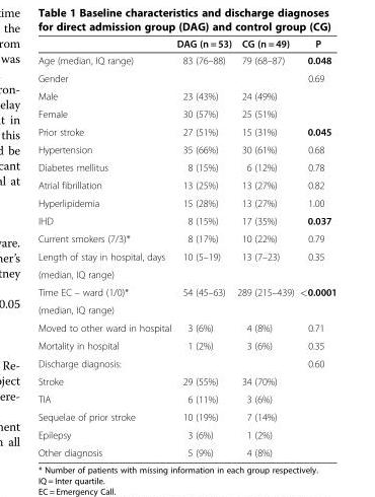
<table><thead><tr><td></td><td>DAG (n = 53)</td><td>CG (n = 49)</td><td>P</td></tr></thead><tbody><tr><td>Age (median, IQ range)</td><td>83 (76–88)</td><td>79 (68–87)</td><td>0.048</td></tr><tr><td>Gender</td><td></td><td></td><td>0.69</td></tr><tr><td>Male</td><td>23 (43%)</td><td>24 (49%)</td><td></td></tr><tr><td>Female</td><td>30 (57%)</td><td>25 (51%)</td><td></td></tr><tr><td>Prior stroke</td><td>27 (51%)</td><td>15 (31%)</td><td>0.045</td></tr><tr><td>Hypertension</td><td>35 (66%)</td><td>30 (61%)</td><td>0.68</td></tr><tr><td>Diabetes mellitus</td><td>8 (15%)</td><td>6 (12%)</td><td>0.78</td></tr><tr><td>Atrial fibrillation</td><td>13 (25%)</td><td>13 (27%)</td><td>0.82</td></tr><tr><td>Hyperlipidemia</td><td>15 (28%)</td><td>13 (27%)</td><td>1.00</td></tr><tr><td>IHD</td><td>8 (15%)</td><td>17 (35%)</td><td>0.037</td></tr><tr><td>Current smokers (7/3)*</td><td>8 (17%)</td><td>10 (22%)</td><td>0.79</td></tr><tr><td>Length of stay in hospital, days</td><td>10 (5–19)</td><td>13 (7–23)</td><td>0.35</td></tr><tr><td colspan="4">(median, IQ range)</td></tr><tr><td>Time EC – ward (1/0)*</td><td>54 (45–63)</td><td>289 (215–439)</td><td>&lt;0.0001</td></tr><tr><td colspan="4">(median, IQ range)</td></tr><tr><td>Moved to other ward in hospital</td><td>3 (6%)</td><td>4 (8%)</td><td>0.71</td></tr><tr><td>Mortality in hospital</td><td>1 (2%)</td><td>3 (6%)</td><td>0.35</td></tr><tr><td>Discharge diagnosis:</td><td></td><td></td><td>0.60</td></tr><tr><td>Stroke</td><td>29 (55%)</td><td>34 (70%)</td><td></td></tr><tr><td>TIA</td><td>6 (11%)</td><td>3 (6%)</td><td></td></tr><tr><td>Sequelae of prior stroke</td><td>10 (19%)</td><td>7 (14%)</td><td></td></tr><tr><td>Epilepsy</td><td>3 (6%)</td><td>1 (2%)</td><td></td></tr><tr><td>Other diagnosis</td><td>5 (9%)</td><td>4 (8%)</td><td></td></tr></tbody></table>